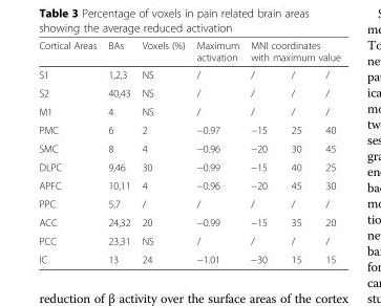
<table><thead><tr><td rowspan="2">Cortical Areas S1</td><td rowspan="2">BAs 1,2,3</td><td rowspan="2">Voxels (%) NS</td><td rowspan="2">Maximum activation /</td><td colspan="3">MNI coordinates with maximum value</td></tr><tr><td>/</td><td>/</td><td>/</td></tr></thead><tbody><tr><td>S2</td><td>40,43</td><td>NS</td><td>/</td><td>/</td><td>/</td><td>/</td></tr><tr><td>M1</td><td>4</td><td>NS</td><td>/</td><td>/</td><td>/</td><td>/</td></tr><tr><td>PMC</td><td>6</td><td>2</td><td>−0.97</td><td>−15</td><td>25</td><td>40</td></tr><tr><td>SMC</td><td>8</td><td>4</td><td>−0.96</td><td>−20</td><td>30</td><td>45</td></tr><tr><td>DLPC</td><td>9,46</td><td>30</td><td>−0.99</td><td>−15</td><td>40</td><td>25</td></tr><tr><td>APFC</td><td>10,11</td><td>4</td><td>−0.96</td><td>−20</td><td>45</td><td>30</td></tr><tr><td>PPC</td><td>5,7</td><td>/</td><td>/</td><td>/</td><td>/</td><td>/</td></tr><tr><td>ACC</td><td>24,32</td><td>20</td><td>−0.99</td><td>−15</td><td>35</td><td>20</td></tr><tr><td>PCC</td><td>23,31</td><td>NS</td><td>/</td><td>/</td><td>/</td><td>/</td></tr><tr><td>IC</td><td>13</td><td>24</td><td>−1.01</td><td>−30</td><td>15</td><td>15</td></tr></tbody></table>